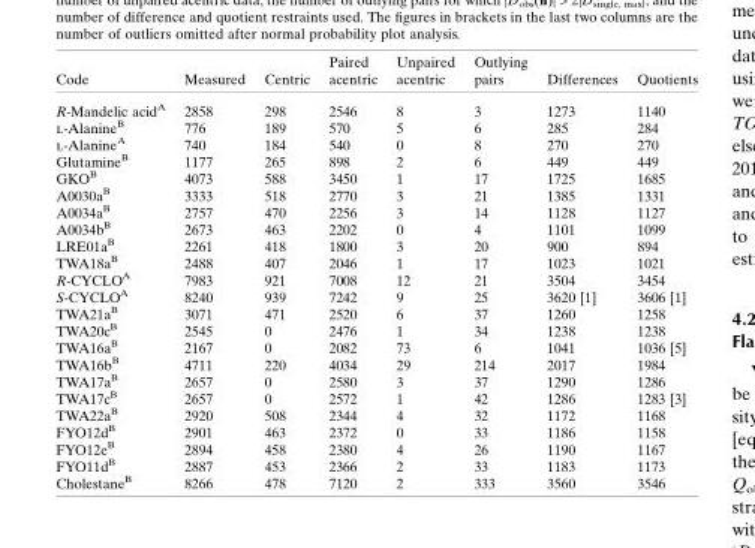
<table><thead><tr><td>Code</td><td>Measured</td><td>Centric</td><td>Paired acentric</td><td>Unpaired acentric</td><td>Outlying pairs</td><td>Differences</td><td>Quotients</td></tr></thead><tbody><tr><td>R-Mandelic acid<sup>A</sup></td><td>2858</td><td>298</td><td>2546</td><td>8</td><td>3</td><td>1273</td><td>1140</td></tr><tr><td>l-Alanine<sup>B</sup></td><td>776</td><td>189</td><td>570</td><td>5</td><td>6</td><td>285</td><td>284</td></tr><tr><td>l-Alanine<sup>A</sup></td><td>740</td><td>184</td><td>540</td><td>0</td><td>8</td><td>270</td><td>270</td></tr><tr><td>Glutamine<sup>B</sup></td><td>1177</td><td>265</td><td>898</td><td>2</td><td>6</td><td>449</td><td>449</td></tr><tr><td>GKO<sup>B</sup></td><td>4073</td><td>588</td><td>3450</td><td>1</td><td>17</td><td>1725</td><td>1685</td></tr><tr><td>A0030a<sup>B</sup></td><td>3333</td><td>518</td><td>2770</td><td>3</td><td>21</td><td>1385</td><td>1331</td></tr><tr><td>A0034a<sup>B</sup></td><td>2757</td><td>470</td><td>2256</td><td>3</td><td>14</td><td>1128</td><td>1127</td></tr><tr><td>A0034b<sup>B</sup></td><td>2673</td><td>463</td><td>2202</td><td>0</td><td>4</td><td>1101</td><td>1099</td></tr><tr><td>LRE01a<sup>B</sup></td><td>2261</td><td>418</td><td>1800</td><td>3</td><td>20</td><td>900</td><td>894</td></tr><tr><td>TWA18a<sup>B</sup></td><td>2488</td><td>407</td><td>2046</td><td>1</td><td>17</td><td>1023</td><td>1021</td></tr><tr><td>R-CYCLO<sup>A</sup></td><td>7983</td><td>921</td><td>7008</td><td>12</td><td>21</td><td>3504</td><td>3454</td></tr><tr><td>S-CYCLO<sup>A</sup></td><td>8240</td><td>939</td><td>7242</td><td>9</td><td>25</td><td>3620 [1]</td><td>3606 [1]</td></tr><tr><td>TWA21a<sup>B</sup></td><td>3071</td><td>471</td><td>2520</td><td>6</td><td>37</td><td>1260</td><td>1258</td></tr><tr><td>TWA20c<sup>B</sup></td><td>2545</td><td>0</td><td>2476</td><td>1</td><td>34</td><td>1238</td><td>1238</td></tr><tr><td>TWA16a<sup>B</sup></td><td>2167</td><td>0</td><td>2082</td><td>73</td><td>6</td><td>1041</td><td>1036 [5]</td></tr><tr><td>TWA16b<sup>B</sup></td><td>4711</td><td>220</td><td>4034</td><td>29</td><td>214</td><td>2017</td><td>1984</td></tr><tr><td>TWA17a<sup>B</sup></td><td>2657</td><td>0</td><td>2580</td><td>3</td><td>37</td><td>1290</td><td>1286</td></tr><tr><td>TWA17c<sup>B</sup></td><td>2657</td><td>0</td><td>2572</td><td>1</td><td>42</td><td>1286</td><td>1283 [3]</td></tr><tr><td>TWA22a<sup>B</sup></td><td>2920</td><td>508</td><td>2344</td><td>4</td><td>32</td><td>1172</td><td>1168</td></tr><tr><td>FYO12d<sup>B</sup></td><td>2901</td><td>463</td><td>2372</td><td>0</td><td>33</td><td>1186</td><td>1158</td></tr><tr><td>FYO12e<sup>B</sup></td><td>2894</td><td>458</td><td>2380</td><td>4</td><td>26</td><td>1190</td><td>1167</td></tr><tr><td>FYO11d<sup>B</sup></td><td>2887</td><td>453</td><td>2366</td><td>2</td><td>33</td><td>1183</td><td>1173</td></tr><tr><td>Cholestane<sup>B</sup></td><td>8266</td><td>478</td><td>7120</td><td>2</td><td>333</td><td>3560</td><td>3546</td></tr></tbody></table>